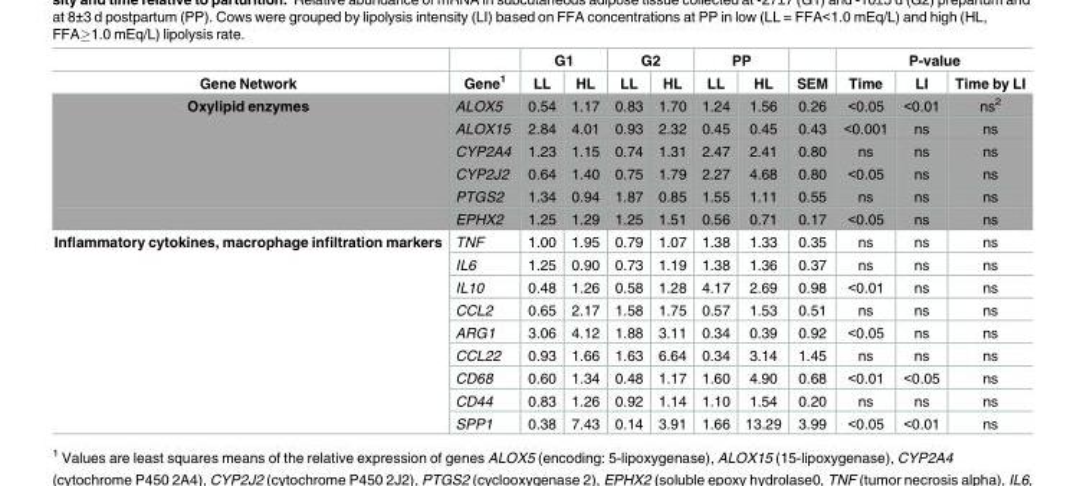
<table><thead><tr><td rowspan="2">Gene Network</td><td rowspan="2">Gene<sup>1</sup></td><td colspan="2">G1</td><td colspan="2">G2</td><td colspan="2">PP</td><td rowspan="2">SEM</td><td colspan="3">P-value</td></tr><tr><td>LL</td><td>HL</td><td>LL</td><td>HL</td><td>LL</td><td>HL</td><td>Time</td><td>LI</td><td>Time by LI</td></tr></thead><tbody><tr><td rowspan="6">Oxylipid enzymes</td><td>ALOX5</td><td>0.54</td><td>1.17</td><td>0.83</td><td>1.70</td><td>1.24</td><td>1.56</td><td>0.26</td><td>&lt;0.05</td><td>&lt;0.01</td><td>ns<sup>2</sup></td></tr><tr><td>ALOX15</td><td>2.84</td><td>4.01</td><td>0.93</td><td>2.32</td><td>0.45</td><td>0.45</td><td>0.43</td><td>&lt;0.001</td><td>ns</td><td>ns</td></tr><tr><td>CYP2A4</td><td>1.23</td><td>1.15</td><td>0.74</td><td>1.31</td><td>2.47</td><td>2.41</td><td>0.80</td><td>ns</td><td>ns</td><td>ns</td></tr><tr><td>CYP2J2</td><td>0.64</td><td>1.40</td><td>0.75</td><td>1.79</td><td>2.27</td><td>4.68</td><td>0.80</td><td>&lt;0.05</td><td>ns</td><td>ns</td></tr><tr><td>PTGS2</td><td>1.34</td><td>0.94</td><td>1.87</td><td>0.85</td><td>1.55</td><td>1.11</td><td>0.55</td><td>ns</td><td>ns</td><td>ns</td></tr><tr><td>EPHX2</td><td>1.25</td><td>1.29</td><td>1.25</td><td>1.51</td><td>0.56</td><td>0.71</td><td>0.17</td><td>&lt;0.05</td><td>ns</td><td>ns</td></tr><tr><td rowspan="9">Inflammatory cytokines, macrophage infiltration markers</td><td>TNF</td><td>1.00</td><td>1.95</td><td>0.79</td><td>1.07</td><td>1.38</td><td>1.33</td><td>0.35</td><td>ns</td><td>ns</td><td>ns</td></tr><tr><td>IL6</td><td>1.25</td><td>0.90</td><td>0.73</td><td>1.19</td><td>1.38</td><td>1.36</td><td>0.37</td><td>ns</td><td>ns</td><td>ns</td></tr><tr><td>IL10</td><td>0.48</td><td>1.26</td><td>0.58</td><td>1.28</td><td>4.17</td><td>2.69</td><td>0.98</td><td>&lt;0.01</td><td>ns</td><td>ns</td></tr><tr><td>CCL2</td><td>0.65</td><td>2.17</td><td>1.58</td><td>1.75</td><td>0.57</td><td>1.53</td><td>0.51</td><td>ns</td><td>ns</td><td>ns</td></tr><tr><td>ARG1</td><td>3.06</td><td>4.12</td><td>1.88</td><td>3.11</td><td>0.34</td><td>0.39</td><td>0.92</td><td>&lt;0.05</td><td>ns</td><td>ns</td></tr><tr><td>CCL22</td><td>0.93</td><td>1.66</td><td>1.63</td><td>6.64</td><td>0.34</td><td>3.14</td><td>1.45</td><td>ns</td><td>ns</td><td>ns</td></tr><tr><td>CD68</td><td>0.60</td><td>1.34</td><td>0.48</td><td>1.17</td><td>1.60</td><td>4.90</td><td>0.68</td><td>&lt;0.01</td><td>&lt;0.05</td><td>ns</td></tr><tr><td>CD44</td><td>0.83</td><td>1.26</td><td>0.92</td><td>1.14</td><td>1.10</td><td>1.54</td><td>0.20</td><td>ns</td><td>ns</td><td>ns</td></tr><tr><td>SPP1</td><td>0.38</td><td>7.43</td><td>0.14</td><td>3.91</td><td>1.66</td><td>13.29</td><td>3.99</td><td>&lt;0.05</td><td>&lt;0.01</td><td>ns</td></tr></tbody></table>